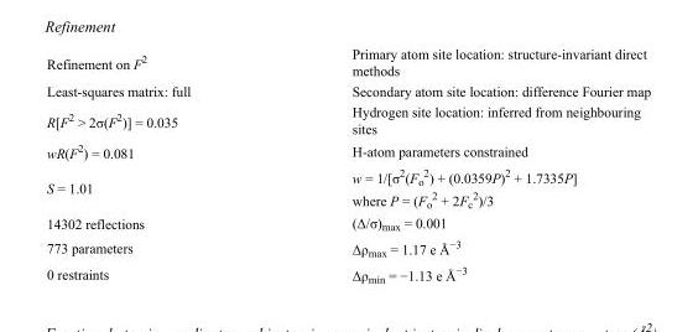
<table><tbody><tr><td>Refinement on F<sup>2</sup></td><td>Primary atom site location: structure-invariant direct methods</td></tr><tr><td>Least-squares matrix: full</td><td>Secondary atom site location: difference Fourier map</td></tr><tr><td>R[F<sup>2</sup> &gt; 2σ(F<sup>2</sup>)] = 0.035</td><td>Hydrogen site location: inferred from neighbouring sites</td></tr><tr><td>wR(F<sup>2</sup>) = 0.081</td><td>H-atom parameters constrained</td></tr><tr><td>S = 1.01</td><td>w = 1/[σ<sup>2</sup>(F<sub>o</sub> <sup>2</sup>) + (0.0359P)<sup>2</sup> + 1.7335P] where P = (F<sub>o</sub> <sup>2</sup> + 2F<sub>c</sub> <sup>2</sup>)/3</td></tr><tr><td>14302 reflections</td><td>(Δ/σ)<sub>max</sub> = 0.001</td></tr><tr><td>773 parameters</td><td>Δρ<sub>max</sub> = 1.17 e Å<sup>−3</sup></td></tr><tr><td>0 restraints</td><td>Δρ<sub>min</sub> = −1.13 e Å<sup>−3</sup></td></tr></tbody></table>